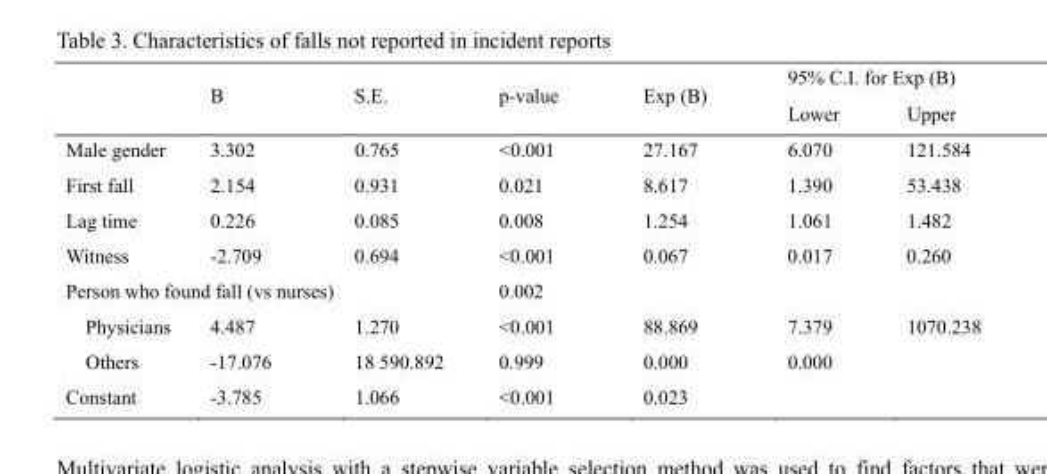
<table><thead><tr><td rowspan="2"></td><td rowspan="2">B</td><td rowspan="2">S.E.</td><td rowspan="2">p-value</td><td rowspan="2">Exp (B)</td><td colspan="2">95% C.I. for Exp (B)</td></tr><tr><td>Lower</td><td>Upper</td></tr></thead><tbody><tr><td>Male gender</td><td>3.302</td><td>0.765</td><td>&lt;0.001</td><td>27.167</td><td>6.070</td><td>121.584</td></tr><tr><td>First fall</td><td>2.154</td><td>0.931</td><td>0.021</td><td>8.617</td><td>1.390</td><td>53.438</td></tr><tr><td>Lag time</td><td>0.226</td><td>0.085</td><td>0.008</td><td>1.254</td><td>1.061</td><td>1.482</td></tr><tr><td>Witness</td><td>-2.709</td><td>0.694</td><td>&lt;0.001</td><td>0.067</td><td>0.017</td><td>0.260</td></tr><tr><td colspan="3">Person who found fall (vs nurses)</td><td>0.002</td><td></td><td></td><td></td></tr><tr><td>Physicians</td><td>4.487</td><td>1.270</td><td>&lt;0.001</td><td>88.869</td><td>7.379</td><td>1070.238</td></tr><tr><td>Others</td><td>-17.076</td><td>18 590.892</td><td>0.999</td><td>0.000</td><td>0.000</td><td></td></tr><tr><td>Constant</td><td>-3.785</td><td>1.066</td><td>&lt;0.001</td><td>0.023</td><td></td><td></td></tr></tbody></table>